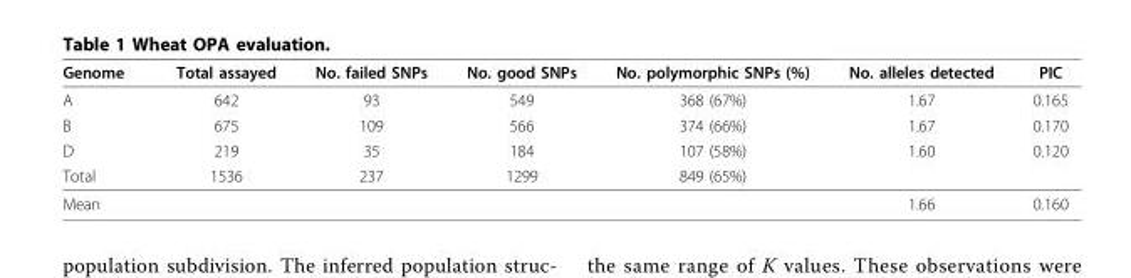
<table><thead><tr><td>Genome</td><td>Total assayed</td><td>No. failed SNPs</td><td>No. good SNPs</td><td>No. polymorphic SNPs (%)</td><td>No. alleles detected</td><td>PIC</td></tr></thead><tbody><tr><td>A</td><td>642</td><td>93</td><td>549</td><td>368 (67%)</td><td>1.67</td><td>0.165</td></tr><tr><td>B</td><td>675</td><td>109</td><td>566</td><td>374 (66%)</td><td>1.67</td><td>0.170</td></tr><tr><td>D</td><td>219</td><td>35</td><td>184</td><td>107 (58%)</td><td>1.60</td><td>0.120</td></tr><tr><td>Total</td><td>1536</td><td>237</td><td>1299</td><td>849 (65%)</td><td></td><td></td></tr><tr><td>Mean</td><td></td><td></td><td></td><td></td><td>1.66</td><td>0.160</td></tr></tbody></table>